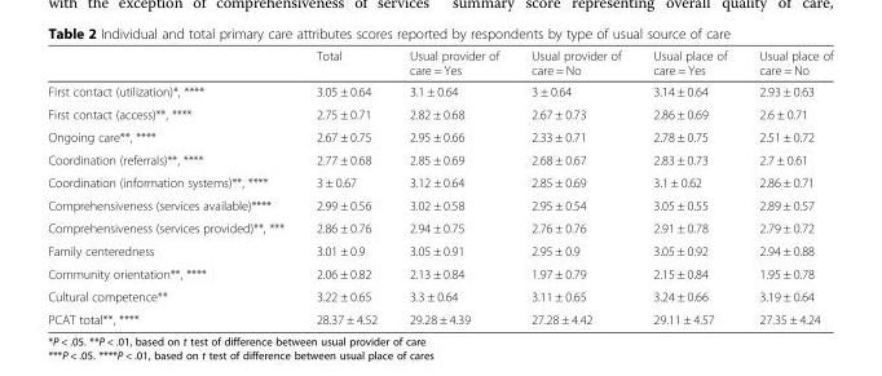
<table><thead><tr><td></td><td>Total</td><td>Usual provider of care = Yes</td><td>Usual provider of care = No</td><td>Usual place of care = Yes</td><td>Usual place of care = No</td></tr></thead><tbody><tr><td>First contact (utilization)*, ****</td><td>3.05 ± 0.64</td><td>3.1 ± 0.64</td><td>3 ± 0.64</td><td>3.14 ± 0.64</td><td>2.93 ± 0.63</td></tr><tr><td>First contact (access)**, ****</td><td>2.75 ± 0.71</td><td>2.82 ± 0.68</td><td>2.67 ± 0.73</td><td>2.86 ± 0.69</td><td>2.6 ± 0.71</td></tr><tr><td>Ongoing care**, ****</td><td>2.67 ± 0.75</td><td>2.95 ± 0.66</td><td>2.33 ± 0.71</td><td>2.78 ± 0.75</td><td>2.51 ± 0.72</td></tr><tr><td>Coordination (referrals)**, ****</td><td>2.77 ± 0.68</td><td>2.85 ± 0.69</td><td>2.68 ± 0.67</td><td>2.83 ± 0.73</td><td>2.7 ± 0.61</td></tr><tr><td>Coordination (information systems)**, ****</td><td>3 ± 0.67</td><td>3.12 ± 0.64</td><td>2.85 ± 0.69</td><td>3.1 ± 0.62</td><td>2.86 ± 0.71</td></tr><tr><td>Comprehensiveness (services available)****</td><td>2.99 ± 0.56</td><td>3.02 ± 0.58</td><td>2.95 ± 0.54</td><td>3.05 ± 0.55</td><td>2.89 ± 0.57</td></tr><tr><td>Comprehensiveness (services provided)**, ***</td><td>2.86 ± 0.76</td><td>2.94 ± 0.75</td><td>2.76 ± 0.76</td><td>2.91 ± 0.78</td><td>2.79 ± 0.72</td></tr><tr><td>Family centeredness</td><td>3.01 ± 0.9</td><td>3.05 ± 0.91</td><td>2.95 ± 0.9</td><td>3.05 ± 0.92</td><td>2.94 ± 0.88</td></tr><tr><td>Community orientation**, ****</td><td>2.06 ± 0.82</td><td>2.13 ± 0.84</td><td>1.97 ± 0.79</td><td>2.15 ± 0.84</td><td>1.95 ± 0.78</td></tr><tr><td>Cultural competence**</td><td>3.22 ± 0.65</td><td>3.3 ± 0.64</td><td>3.11 ± 0.65</td><td>3.24 ± 0.66</td><td>3.19 ± 0.64</td></tr><tr><td>PCAT total**, ****</td><td>28.37 ± 4.52</td><td>29.28 ± 4.39</td><td>27.28 ± 4.42</td><td>29.11 ± 4.57</td><td>27.35 ± 4.24</td></tr></tbody></table>